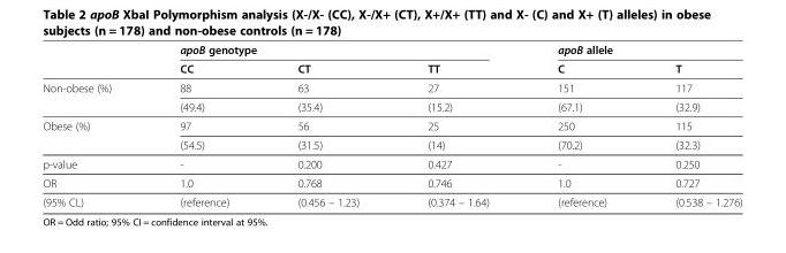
<table><thead><tr><td rowspan="2"></td><td colspan="3">apoB genotype</td><td colspan="2">apoB allele</td></tr><tr><td>CC</td><td>CT</td><td>TT</td><td>C</td><td>T</td></tr></thead><tbody><tr><td rowspan="2">Non-obese (%)</td><td>88</td><td>63</td><td>27</td><td>151</td><td>117</td></tr><tr><td>(49.4)</td><td>(35.4)</td><td>(15.2)</td><td>(67.1)</td><td>(32.9)</td></tr><tr><td rowspan="2">Obese (%)</td><td>97</td><td>56</td><td>25</td><td>250</td><td>115</td></tr><tr><td>(54.5)</td><td>(31.5)</td><td>(14)</td><td>(70.2)</td><td>(32.3)</td></tr><tr><td>p-value</td><td>-</td><td>0.200</td><td>0.427</td><td>-</td><td>0.250</td></tr><tr><td>OR</td><td>1.0</td><td>0.768</td><td>0.746</td><td>1.0</td><td>0.727</td></tr><tr><td>(95% CL)</td><td>(reference)</td><td>(0.456 – 1.23)</td><td>(0.374 – 1.64)</td><td>(reference)</td><td>(0.538 – 1.276)</td></tr></tbody></table>